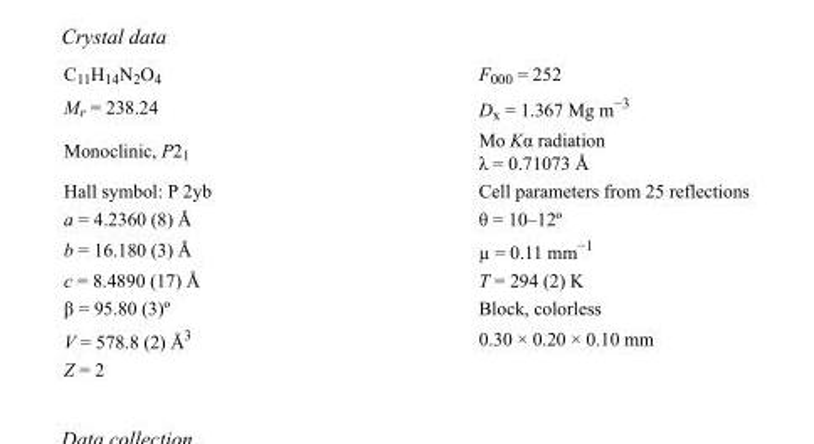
<table><tbody><tr><td>C<sub>11</sub>H<sub>14</sub>N<sub>2</sub>O<sub>4</sub></td><td>F000 = 252</td></tr><tr><td>M<sub>r</sub> = 238.24</td><td>D<sub>x</sub> = 1.367 Mg m<sup>−3</sup></td></tr><tr><td>Monoclinic, P2<sub>1</sub></td><td>Mo Kα radiation λ = 0.71073 Å</td></tr><tr><td>Hall symbol: P 2yb</td><td>Cell parameters from 25 reflections</td></tr><tr><td>a = 4.2360 (8) Å</td><td>θ = 10–12º</td></tr><tr><td>b = 16.180 (3) Å</td><td>µ = 0.11 mm<sup>−1</sup></td></tr><tr><td>c = 8.4890 (17) Å</td><td>T = 294 (2) K</td></tr><tr><td>β = 95.80 (3)º</td><td>Block, colorless</td></tr><tr><td>V = 578.8 (2) Å<sup>3</sup></td><td>0.30 × 0.20 × 0.10 mm</td></tr><tr><td>Z = 2</td><td></td></tr></tbody></table>